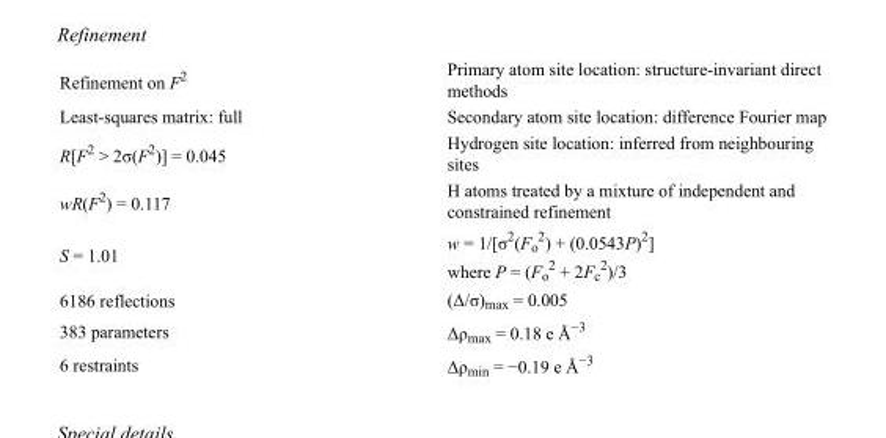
<table><tbody><tr><td>Refinement on F<sup>2</sup></td><td>Primary atom site location: structure-invariant direct methods</td></tr><tr><td>Least-squares matrix: full</td><td>Secondary atom site location: difference Fourier map</td></tr><tr><td>R[F<sup>2</sup> &gt; 2σ(F<sup>2</sup>)] = 0.045</td><td>Hydrogen site location: inferred from neighbouring sites</td></tr><tr><td>wR(F<sup>2</sup>) = 0.117</td><td>H atoms treated by a mixture of independent and constrained refinement</td></tr><tr><td>S = 1.01</td><td>w = 1/[σ<sup>2</sup>(F<sub>o</sub> <sup>2</sup>) + (0.0543P)<sup>2</sup>] where P = (F<sub>o</sub> <sup>2</sup> + 2F<sub>c</sub> <sup>2</sup>)/3</td></tr><tr><td>6186 reflections</td><td>(Δ/σ)<sub>max</sub> = 0.005</td></tr><tr><td>383 parameters</td><td>Δρ<sub>max</sub> = 0.18 e Å<sup>−3</sup></td></tr><tr><td>6 restraints</td><td>Δρ<sub>min</sub> = −0.19 e Å<sup>−3</sup></td></tr></tbody></table>